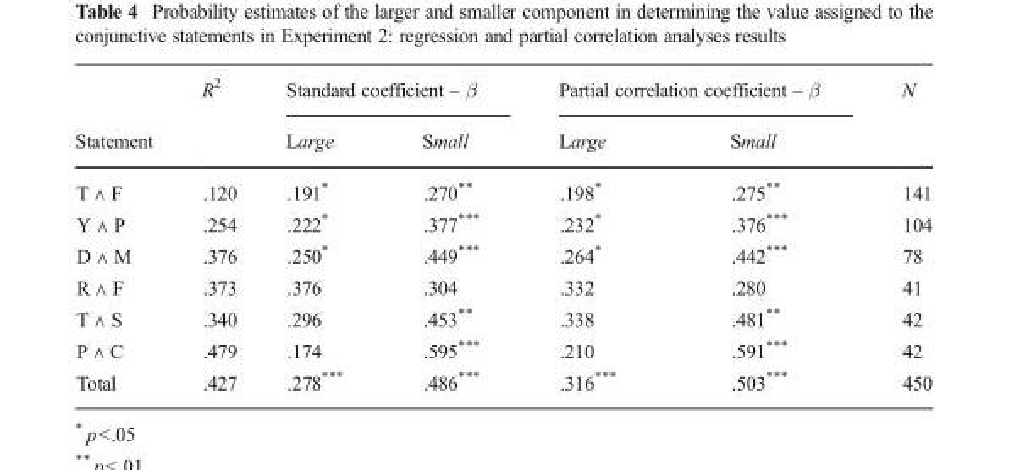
<table><thead><tr><td rowspan="2">Statement</td><td rowspan="2">R<sup>2</sup></td><td colspan="2">Standard coefficient – β</td><td colspan="2">Partial correlation coefficient – β</td><td rowspan="2">N</td></tr><tr><td>Large</td><td>Small</td><td>Large</td><td>Small</td></tr></thead><tbody><tr><td>T ∧ F</td><td>.120</td><td>.191*</td><td>.270**</td><td>.198*</td><td>.275**</td><td>141</td></tr><tr><td>Y ∧ P</td><td>.254</td><td>.222*</td><td>.377***</td><td>.232*</td><td>.376***</td><td>104</td></tr><tr><td>D ∧ M</td><td>.376</td><td>.250*</td><td>.449***</td><td>.264*</td><td>.442***</td><td>78</td></tr><tr><td>R ∧ F</td><td>.373</td><td>.376</td><td>.304</td><td>.332</td><td>.280</td><td>41</td></tr><tr><td>T ∧ S</td><td>.340</td><td>.296</td><td>.453**</td><td>.338</td><td>.481**</td><td>42</td></tr><tr><td>P ∧ C</td><td>.479</td><td>.174</td><td>.595***</td><td>.210</td><td>.591***</td><td>42</td></tr><tr><td>Total</td><td>.427</td><td>.278***</td><td>.486***</td><td>.316***</td><td>.503***</td><td>450</td></tr></tbody></table>